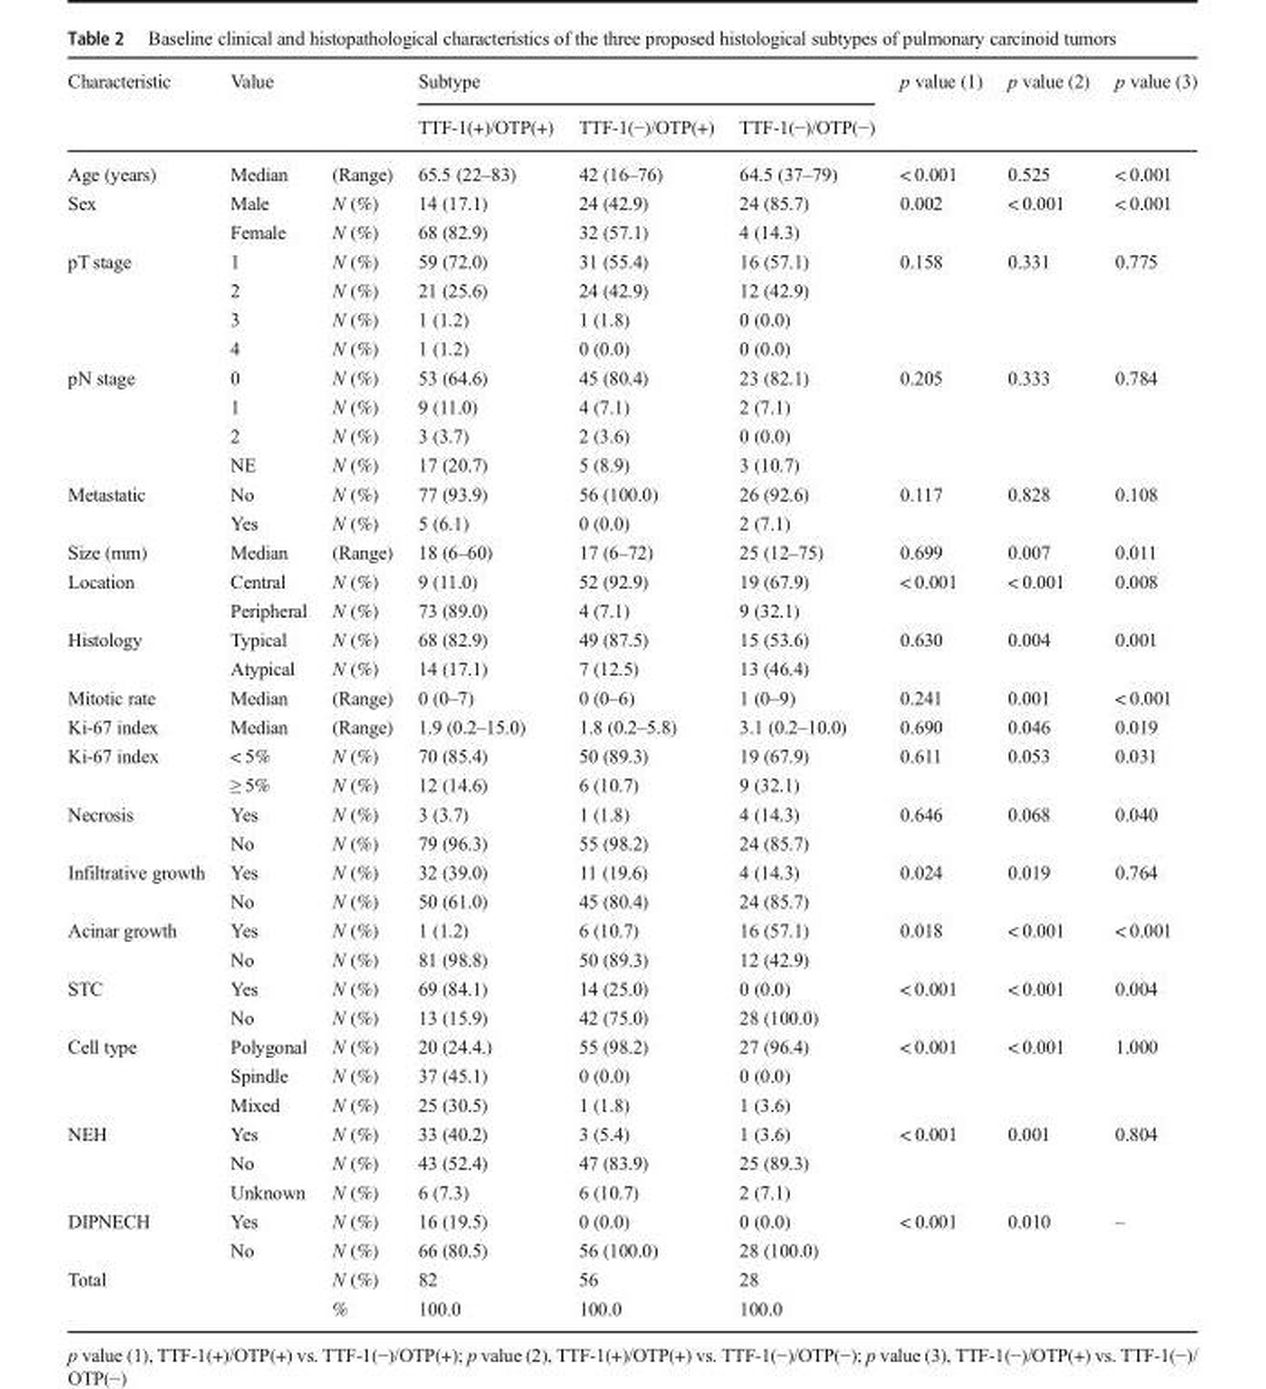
<table><thead><tr><td rowspan="2">Characteristic</td><td rowspan="2">Value</td><td rowspan="2"></td><td colspan="3">Subtype</td><td rowspan="2">p value (1)</td><td rowspan="2">p value (2)</td><td rowspan="2">p value (3)</td></tr><tr><td>TTF-1(+)/OTP(+)</td><td>TTF-1(−)/OTP(+)</td><td>TTF-1(−)/OTP(−)</td></tr></thead><tbody><tr><td>Age (years)</td><td>Median</td><td>(Range)</td><td>65.5 (22–83)</td><td>42 (16–76)</td><td>64.5 (37–79)</td><td>&lt; 0.001</td><td>0.525</td><td>&lt; 0.001</td></tr><tr><td rowspan="2">Sex</td><td>Male</td><td>N (%)</td><td>14 (17.1)</td><td>24 (42.9)</td><td>24 (85.7)</td><td>0.002</td><td>&lt; 0.001</td><td>&lt; 0.001</td></tr><tr><td>Female</td><td>N (%)</td><td>68 (82.9)</td><td>32 (57.1)</td><td>4 (14.3)</td><td></td><td></td><td></td></tr><tr><td rowspan="4">pT stage</td><td>1</td><td>N (%)</td><td>59 (72.0)</td><td>31 (55.4)</td><td>16 (57.1)</td><td>0.158</td><td>0.331</td><td>0.775</td></tr><tr><td>2</td><td>N (%)</td><td>21 (25.6)</td><td>24 (42.9)</td><td>12 (42.9)</td><td></td><td></td><td></td></tr><tr><td>3</td><td>N (%)</td><td>1 (1.2)</td><td>1 (1.8)</td><td>0 (0.0)</td><td></td><td></td><td></td></tr><tr><td>4</td><td>N (%)</td><td>1 (1.2)</td><td>0 (0.0)</td><td>0 (0.0)</td><td></td><td></td><td></td></tr><tr><td rowspan="4">pN stage</td><td>0</td><td>N (%)</td><td>53 (64.6)</td><td>45 (80.4)</td><td>23 (82.1)</td><td>0.205</td><td>0.333</td><td>0.784</td></tr><tr><td>1</td><td>N (%)</td><td>9 (11.0)</td><td>4 (7.1)</td><td>2 (7.1)</td><td></td><td></td><td></td></tr><tr><td>2</td><td>N (%)</td><td>3 (3.7)</td><td>2 (3.6)</td><td>0 (0.0)</td><td></td><td></td><td></td></tr><tr><td>NE</td><td>N (%)</td><td>17 (20.7)</td><td>5 (8.9)</td><td>3 (10.7)</td><td></td><td></td><td></td></tr><tr><td rowspan="2">Metastatic</td><td>No</td><td>N (%)</td><td>77 (93.9)</td><td>56 (100.0)</td><td>26 (92.6)</td><td>0.117</td><td>0.828</td><td>0.108</td></tr><tr><td>Yes</td><td>N (%)</td><td>5 (6.1)</td><td>0 (0.0)</td><td>2 (7.1)</td><td></td><td></td><td></td></tr><tr><td>Size (mm)</td><td>Median</td><td>(Range)</td><td>18 (6–60)</td><td>17 (6–72)</td><td>25 (12–75)</td><td>0.699</td><td>0.007</td><td>0.011</td></tr><tr><td rowspan="2">Location</td><td>Central</td><td>N (%)</td><td>9 (11.0)</td><td>52 (92.9)</td><td>19 (67.9)</td><td>&lt; 0.001</td><td>&lt; 0.001</td><td>0.008</td></tr><tr><td>Peripheral</td><td>N (%)</td><td>73 (89.0)</td><td>4 (7.1)</td><td>9 (32.1)</td><td></td><td></td><td></td></tr><tr><td rowspan="2">Histology</td><td>Typical</td><td>N (%)</td><td>68 (82.9)</td><td>49 (87.5)</td><td>15 (53.6)</td><td>0.630</td><td>0.004</td><td>0.001</td></tr><tr><td>Atypical</td><td>N (%)</td><td>14 (17.1)</td><td>7 (12.5)</td><td>13 (46.4)</td><td></td><td></td><td></td></tr><tr><td>Mitotic rate</td><td>Median</td><td>(Range)</td><td>0 (0–7)</td><td>0 (0–6)</td><td>1 (0–9)</td><td>0.241</td><td>0.001</td><td>&lt; 0.001</td></tr><tr><td>Ki-67 index</td><td>Median</td><td>(Range)</td><td>1.9 (0.2–15.0)</td><td>1.8 (0.2–5.8)</td><td>3.1 (0.2–10.0)</td><td>0.690</td><td>0.046</td><td>0.019</td></tr><tr><td rowspan="2">Ki-67 index</td><td>&lt; 5%</td><td>N (%)</td><td>70 (85.4)</td><td>50 (89.3)</td><td>19 (67.9)</td><td>0.611</td><td>0.053</td><td>0.031</td></tr><tr><td>≥ 5%</td><td>N (%)</td><td>12 (14.6)</td><td>6 (10.7)</td><td>9 (32.1)</td><td></td><td></td><td></td></tr><tr><td rowspan="2">Necrosis</td><td>Yes</td><td>N (%)</td><td>3 (3.7)</td><td>1 (1.8)</td><td>4 (14.3)</td><td>0.646</td><td>0.068</td><td>0.040</td></tr><tr><td>No</td><td>N (%)</td><td>79 (96.3)</td><td>55 (98.2)</td><td>24 (85.7)</td><td></td><td></td><td></td></tr><tr><td rowspan="2">Infiltrative growth</td><td>Yes</td><td>N (%)</td><td>32 (39.0)</td><td>11 (19.6)</td><td>4 (14.3)</td><td>0.024</td><td>0.019</td><td>0.764</td></tr><tr><td>No</td><td>N (%)</td><td>50 (61.0)</td><td>45 (80.4)</td><td>24 (85.7)</td><td></td><td></td><td></td></tr><tr><td rowspan="2">Acinar growth</td><td>Yes</td><td>N (%)</td><td>1 (1.2)</td><td>6 (10.7)</td><td>16 (57.1)</td><td>0.018</td><td>&lt; 0.001</td><td>&lt; 0.001</td></tr><tr><td>No</td><td>N (%)</td><td>81 (98.8)</td><td>50 (89.3)</td><td>12 (42.9)</td><td></td><td></td><td></td></tr><tr><td rowspan="2">STC</td><td>Yes</td><td>N (%)</td><td>69 (84.1)</td><td>14 (25.0)</td><td>0 (0.0)</td><td>&lt; 0.001</td><td>&lt; 0.001</td><td>0.004</td></tr><tr><td>No</td><td>N (%)</td><td>13 (15.9)</td><td>42 (75.0)</td><td>28 (100.0)</td><td></td><td></td><td></td></tr><tr><td rowspan="3">Cell type</td><td>Polygonal</td><td>N (%)</td><td>20 (24.4.)</td><td>55 (98.2)</td><td>27 (96.4)</td><td>&lt; 0.001</td><td>&lt; 0.001</td><td>1.000</td></tr><tr><td>Spindle</td><td>N (%)</td><td>37 (45.1)</td><td>0 (0.0)</td><td>0 (0.0)</td><td></td><td></td><td></td></tr><tr><td>Mixed</td><td>N (%)</td><td>25 (30.5)</td><td>1 (1.8)</td><td>1 (3.6)</td><td></td><td></td><td></td></tr><tr><td rowspan="3">NEH</td><td>Yes</td><td>N (%)</td><td>33 (40.2)</td><td>3 (5.4)</td><td>1 (3.6)</td><td>&lt; 0.001</td><td>0.001</td><td>0.804</td></tr><tr><td>No</td><td>N (%)</td><td>43 (52.4)</td><td>47 (83.9)</td><td>25 (89.3)</td><td></td><td></td><td></td></tr><tr><td>Unknown</td><td>N (%)</td><td>6 (7.3)</td><td>6 (10.7)</td><td>2 (7.1)</td><td></td><td></td><td></td></tr><tr><td rowspan="2">DIPNECH</td><td>Yes</td><td>N (%)</td><td>16 (19.5)</td><td>0 (0.0)</td><td>0 (0.0)</td><td>&lt; 0.001</td><td>0.010</td><td>–</td></tr><tr><td>No</td><td>N (%)</td><td>66 (80.5)</td><td>56 (100.0)</td><td>28 (100.0)</td><td></td><td></td><td></td></tr><tr><td rowspan="2">Total</td><td></td><td>N (%)</td><td>82</td><td>56</td><td>28</td><td></td><td></td><td></td></tr><tr><td></td><td>%</td><td>100.0</td><td>100.0</td><td>100.0</td><td></td><td></td><td></td></tr></tbody></table>